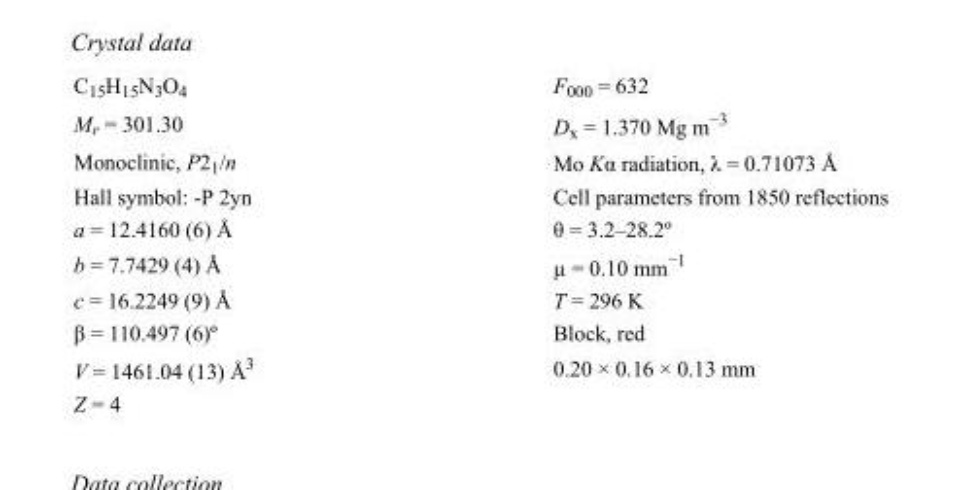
<table><tbody><tr><td>C<sub>15</sub>H<sub>15</sub>N<sub>3</sub>O<sub>4</sub></td><td>F000 = 632</td></tr><tr><td>M<sub>r</sub> = 301.30</td><td>D<sub>x</sub> = 1.370 Mg m<sup>−3</sup></td></tr><tr><td>Monoclinic, P2<sub>1</sub>/n</td><td>Mo Kα radiation, λ = 0.71073 Å</td></tr><tr><td>Hall symbol: -P 2yn</td><td>Cell parameters from 1850 reflections</td></tr><tr><td>a = 12.4160 (6) Å</td><td>θ = 3.2–28.2º</td></tr><tr><td>b = 7.7429 (4) Å</td><td>µ = 0.10 mm<sup>−1</sup></td></tr><tr><td>c = 16.2249 (9) Å</td><td>T = 296 K</td></tr><tr><td>β = 110.497 (6)º</td><td>Block, red</td></tr><tr><td>V = 1461.04 (13) Å<sup>3</sup></td><td>0.20 × 0.16 × 0.13 mm</td></tr><tr><td>Z = 4</td><td></td></tr></tbody></table>